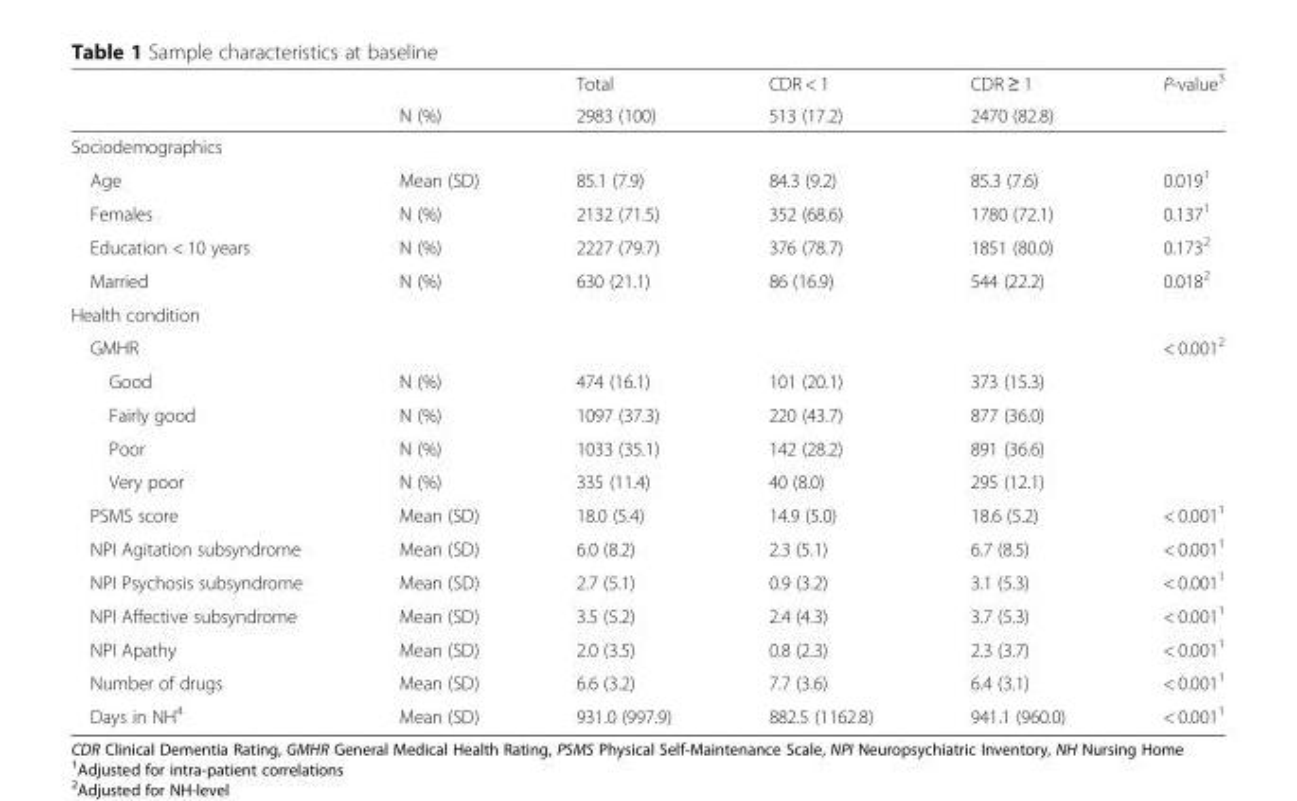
<table><thead><tr><td rowspan="2"></td><td rowspan="2">N (%)</td><td rowspan="2">Total 2983 (100)</td><td rowspan="2">CDR &lt; 1 513 (17.2)</td><td rowspan="2">CDR ≥ 1 2470 (82.8)</td><td rowspan="2">P-value<sup>3</sup></td></tr><tr></tr></thead><tbody><tr><td colspan="6">Sociodemographics</td></tr><tr><td>Age</td><td>Mean (SD)</td><td>85.1 (7.9)</td><td>84.3 (9.2)</td><td>85.3 (7.6)</td><td>0.019<sup>1</sup></td></tr><tr><td>Females</td><td>N (%)</td><td>2132 (71.5)</td><td>352 (68.6)</td><td>1780 (72.1)</td><td>0.137<sup>1</sup></td></tr><tr><td>Education &lt; 10 years</td><td>N (%)</td><td>2227 (79.7)</td><td>376 (78.7)</td><td>1851 (80.0)</td><td>0.173<sup>2</sup></td></tr><tr><td>Married</td><td>N (%)</td><td>630 (21.1)</td><td>86 (16.9)</td><td>544 (22.2)</td><td>0.018<sup>2</sup></td></tr><tr><td colspan="6">Health condition</td></tr><tr><td>GMHR</td><td></td><td></td><td></td><td></td><td>&lt; 0.001<sup>2</sup></td></tr><tr><td>Good</td><td>N (%)</td><td>474 (16.1)</td><td>101 (20.1)</td><td>373 (15.3)</td><td></td></tr><tr><td>Fairly good</td><td>N (%)</td><td>1097 (37.3)</td><td>220 (43.7)</td><td>877 (36.0)</td><td></td></tr><tr><td>Poor</td><td>N (%)</td><td>1033 (35.1)</td><td>142 (28.2)</td><td>891 (36.6)</td><td></td></tr><tr><td>Very poor</td><td>N (%)</td><td>335 (11.4)</td><td>40 (8.0)</td><td>295 (12.1)</td><td></td></tr><tr><td>PSMS score</td><td>Mean (SD)</td><td>18.0 (5.4)</td><td>14.9 (5.0)</td><td>18.6 (5.2)</td><td>&lt; 0.001<sup>1</sup></td></tr><tr><td>NPI Agitation subsyndrome</td><td>Mean (SD)</td><td>6.0 (8.2)</td><td>2.3 (5.1)</td><td>6.7 (8.5)</td><td>&lt; 0.001<sup>1</sup></td></tr><tr><td>NPI Psychosis subsyndrome</td><td>Mean (SD)</td><td>2.7 (5.1)</td><td>0.9 (3.2)</td><td>3.1 (5.3)</td><td>&lt; 0.001<sup>1</sup></td></tr><tr><td>NPI Affective subsyndrome</td><td>Mean (SD)</td><td>3.5 (5.2)</td><td>2.4 (4.3)</td><td>3.7 (5.3)</td><td>&lt; 0.001<sup>1</sup></td></tr><tr><td>NPI Apathy</td><td>Mean (SD)</td><td>2.0 (3.5)</td><td>0.8 (2.3)</td><td>2.3 (3.7)</td><td>&lt; 0.001<sup>1</sup></td></tr><tr><td>Number of drugs</td><td>Mean (SD)</td><td>6.6 (3.2)</td><td>7.7 (3.6)</td><td>6.4 (3.1)</td><td>&lt; 0.001<sup>1</sup></td></tr><tr><td>Days in NH<sup>4</sup></td><td>Mean (SD)</td><td>931.0 (997.9)</td><td>882.5 (1162.8)</td><td>941.1 (960.0)</td><td>&lt; 0.001<sup>1</sup></td></tr></tbody></table>